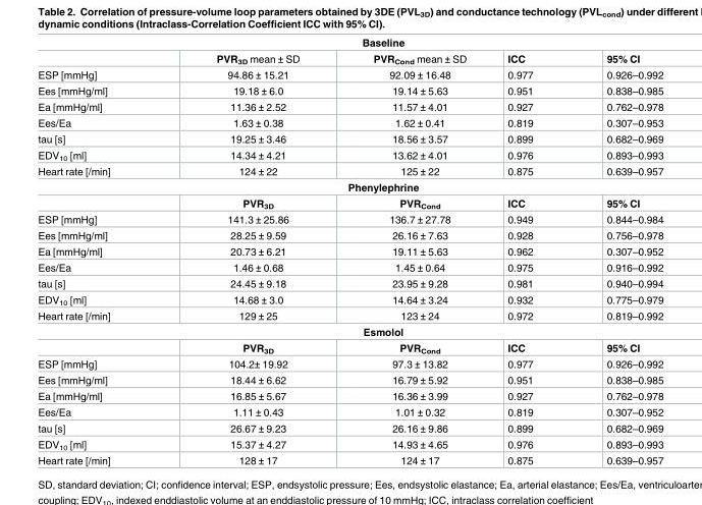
<table><tbody><tr><td colspan="5">Baseline</td></tr><tr><td></td><td>PVR<sub>3D</sub> mean ± SD</td><td>PVR<sub>Cond</sub> mean ± SD</td><td>ICC</td><td>95% CI</td></tr><tr><td>ESP [mmHg]</td><td>94.86 ± 15.21</td><td>92.09 ± 16.48</td><td>0.977</td><td>0.926–0.992</td></tr><tr><td>Ees [mmHg/ml]</td><td>19.18 ± 6.0</td><td>19.14 ± 5.63</td><td>0.951</td><td>0.838–0.985</td></tr><tr><td>Ea [mmHg/ml]</td><td>11.36 ± 2.52</td><td>11.57 ± 4.01</td><td>0.927</td><td>0.762–0.978</td></tr><tr><td>Ees/Ea</td><td>1.63 ± 0.38</td><td>1.62 ± 0.41</td><td>0.819</td><td>0.307–0.953</td></tr><tr><td>tau [s]</td><td>19.25 ± 3.46</td><td>18.56 ± 3.57</td><td>0.899</td><td>0.682–0.969</td></tr><tr><td>EDV<sub>10</sub> [ml]</td><td>14.34 ± 4.21</td><td>13.62 ± 4.01</td><td>0.976</td><td>0.893–0.993</td></tr><tr><td>Heart rate [/min]</td><td>124 ± 22</td><td>125 ± 22</td><td>0.875</td><td>0.639–0.957</td></tr><tr><td colspan="5">Phenylephrine</td></tr><tr><td></td><td>PVR<sub>3D</sub></td><td>PVR<sub>Cond</sub></td><td>ICC</td><td>95% CI</td></tr><tr><td>ESP [mmHg]</td><td>141.3 ± 25.86</td><td>136.7 ± 27.78</td><td>0.949</td><td>0.844–0.984</td></tr><tr><td>Ees [mmHg/ml]</td><td>28.25 ± 9.59</td><td>26.16 ± 7.63</td><td>0.928</td><td>0.756–0.978</td></tr><tr><td>Ea [mmHg/ml]</td><td>20.73 ± 6.21</td><td>19.11 ± 5.63</td><td>0.962</td><td>0.307–0.952</td></tr><tr><td>Ees/Ea</td><td>1.46 ± 0.68</td><td>1.45 ± 0.64</td><td>0.975</td><td>0.916–0.992</td></tr><tr><td>tau [s]</td><td>24.45 ± 9.18</td><td>23.95 ± 9.28</td><td>0.981</td><td>0.940–0.994</td></tr><tr><td>EDV<sub>10</sub> [ml]</td><td>14.68 ± 3.0</td><td>14.64 ± 3.24</td><td>0.932</td><td>0.775–0.979</td></tr><tr><td>Heart rate [/min]</td><td>129 ± 25</td><td>123 ± 24</td><td>0.972</td><td>0.819–0.992</td></tr><tr><td colspan="5">Esmolol</td></tr><tr><td></td><td>PVR<sub>3D</sub></td><td>PVR<sub>Cond</sub></td><td>ICC</td><td>95% CI</td></tr><tr><td>ESP [mmHg]</td><td>104.2± 19.92</td><td>97.3 ± 13.82</td><td>0.977</td><td>0.926–0.992</td></tr><tr><td>Ees [mmHg/ml]</td><td>18.44 ± 6.62</td><td>16.79 ± 5.92</td><td>0.951</td><td>0.838–0.985</td></tr><tr><td>Ea [mmHg/ml]</td><td>16.85 ± 5.67</td><td>16.36 ± 3.99</td><td>0.927</td><td>0.762–0.978</td></tr><tr><td>Ees/Ea</td><td>1.11 ± 0.43</td><td>1.01 ± 0.32</td><td>0.819</td><td>0.307–0.952</td></tr><tr><td>tau [s]</td><td>26.67 ± 9.23</td><td>26.16 ± 9.86</td><td>0.899</td><td>0.682–0.969</td></tr><tr><td>EDV<sub>10</sub> [ml]</td><td>15.37 ± 4.27</td><td>14.93 ± 4.65</td><td>0.976</td><td>0.893–0.993</td></tr><tr><td>Heart rate [/min]</td><td>128 ± 17</td><td>124 ± 17</td><td>0.875</td><td>0.639–0.957</td></tr></tbody></table>